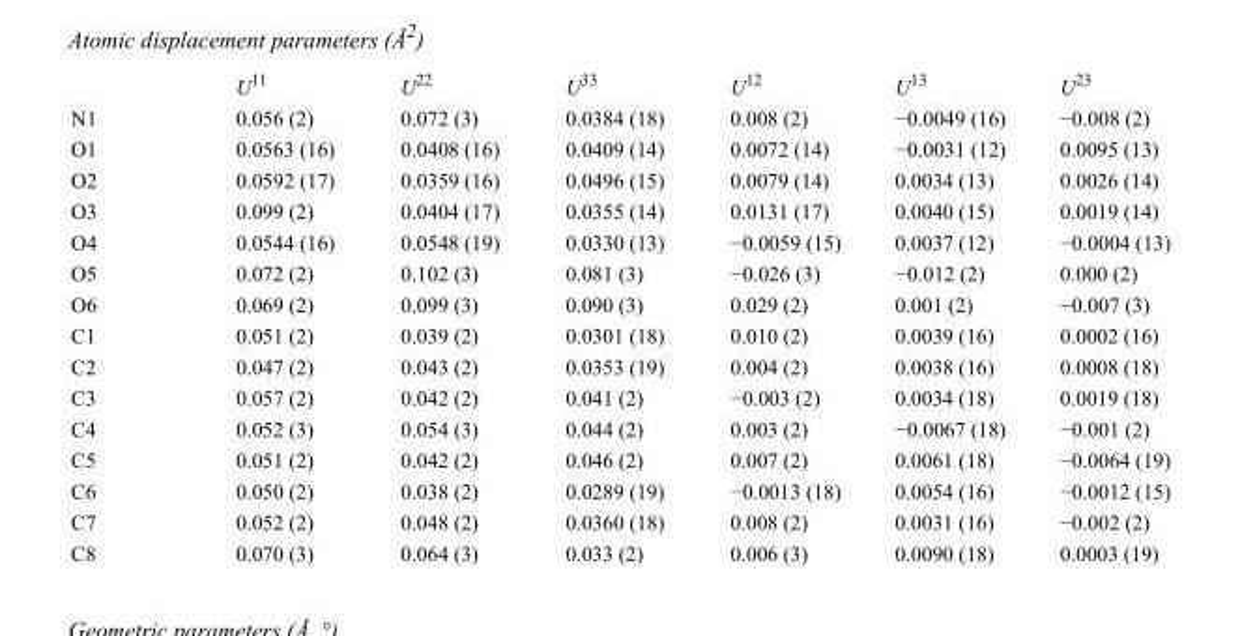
<table><thead><tr><td></td><td>U<sup>11</sup></td><td>U<sup>22</sup></td><td>U<sup>33</sup></td><td>U<sup>12</sup></td><td>U<sup>13</sup></td><td>U<sup>23</sup></td></tr></thead><tbody><tr><td>N1</td><td>0.056 (2)</td><td>0.072 (3)</td><td>0.0384 (18)</td><td>0.008 (2)</td><td>−0.0049 (16)</td><td>−0.008 (2)</td></tr><tr><td>O1</td><td>0.0563 (16)</td><td>0.0408 (16)</td><td>0.0409 (14)</td><td>0.0072 (14)</td><td>−0.0031 (12)</td><td>0.0095 (13)</td></tr><tr><td>O2</td><td>0.0592 (17)</td><td>0.0359 (16)</td><td>0.0496 (15)</td><td>0.0079 (14)</td><td>0.0034 (13)</td><td>0.0026 (14)</td></tr><tr><td>O3</td><td>0.099 (2)</td><td>0.0404 (17)</td><td>0.0355 (14)</td><td>0.0131 (17)</td><td>0.0040 (15)</td><td>0.0019 (14)</td></tr><tr><td>O4</td><td>0.0544 (16)</td><td>0.0548 (19)</td><td>0.0330 (13)</td><td>−0.0059 (15)</td><td>0.0037 (12)</td><td>−0.0004 (13)</td></tr><tr><td>O5</td><td>0.072 (2)</td><td>0.102 (3)</td><td>0.081 (3)</td><td>−0.026 (3)</td><td>−0.012 (2)</td><td>0.000 (2)</td></tr><tr><td>O6</td><td>0.069 (2)</td><td>0.099 (3)</td><td>0.090 (3)</td><td>0.029 (2)</td><td>0.001 (2)</td><td>−0.007 (3)</td></tr><tr><td>C1</td><td>0.051 (2)</td><td>0.039 (2)</td><td>0.0301 (18)</td><td>0.010 (2)</td><td>0.0039 (16)</td><td>0.0002 (16)</td></tr><tr><td>C2</td><td>0.047 (2)</td><td>0.043 (2)</td><td>0.0353 (19)</td><td>0.004 (2)</td><td>0.0038 (16)</td><td>0.0008 (18)</td></tr><tr><td>C3</td><td>0.057 (2)</td><td>0.042 (2)</td><td>0.041 (2)</td><td>−0.003 (2)</td><td>0.0034 (18)</td><td>0.0019 (18)</td></tr><tr><td>C4</td><td>0.052 (3)</td><td>0.054 (3)</td><td>0.044 (2)</td><td>0.003 (2)</td><td>−0.0067 (18)</td><td>−0.001 (2)</td></tr><tr><td>C5</td><td>0.051 (2)</td><td>0.042 (2)</td><td>0.046 (2)</td><td>0.007 (2)</td><td>0.0061 (18)</td><td>−0.0064 (19)</td></tr><tr><td>C6</td><td>0.050 (2)</td><td>0.038 (2)</td><td>0.0289 (19)</td><td>−0.0013 (18)</td><td>0.0054 (16)</td><td>−0.0012 (15)</td></tr><tr><td>C7</td><td>0.052 (2)</td><td>0.048 (2)</td><td>0.0360 (18)</td><td>0.008 (2)</td><td>0.0031 (16)</td><td>−0.002 (2)</td></tr><tr><td>C8</td><td>0.070 (3)</td><td>0.064 (3)</td><td>0.033 (2)</td><td>0.006 (3)</td><td>0.0090 (18)</td><td>0.0003 (19)</td></tr></tbody></table>